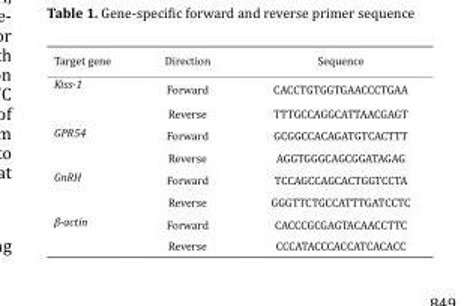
<table><thead><tr><td>Target gene</td><td>Direction</td><td>Sequence</td></tr></thead><tbody><tr><td rowspan="2">Kiss-1</td><td>Forward</td><td>CACCTGTGGTGAACCCTGAA</td></tr><tr><td>Reverse</td><td>TTTGCCAGGCATTAACGAGT</td></tr><tr><td rowspan="2">GPR54</td><td>Forward</td><td>GCGGCCACAGATGTCACTTT</td></tr><tr><td>Reverse</td><td>AGGTGGGCAGCGGATAGAG</td></tr><tr><td rowspan="2">GnRH</td><td>Forward</td><td>TCCAGCCAGCACTGGTCCTA</td></tr><tr><td>Reverse</td><td>GGGTTCTGCCATTTGATCCTC</td></tr><tr><td rowspan="2">β-actin</td><td>Forward</td><td>CACCCGCGAGTACAACCTTC</td></tr><tr><td>Reverse</td><td>CCCATACCCACCATCACACC</td></tr></tbody></table>